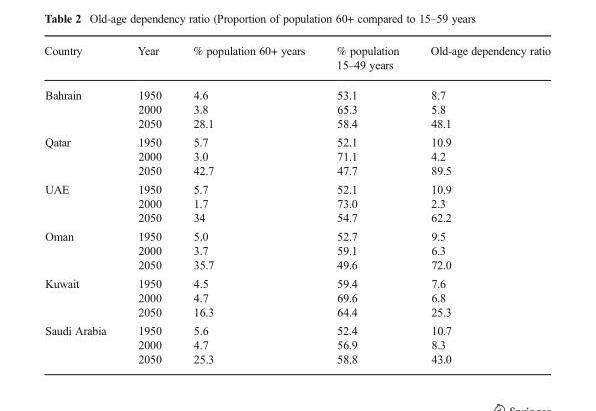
<table><thead><tr><td>Country</td><td>Year</td><td>% population 60+ years</td><td>% population 15–49 years</td><td>Old-age dependency ratio</td></tr></thead><tbody><tr><td>Bahrain</td><td>1950 2000 2050</td><td>4.6 3.8 28.1</td><td>53.1 65.3 58.4</td><td>8.7 5.8 48.1</td></tr><tr><td>Qatar</td><td>1950 2000 2050</td><td>5.7 3.0 42.7</td><td>52.1 71.1 47.7</td><td>10.9 4.2 89.5</td></tr><tr><td>UAE</td><td>1950 2000 2050</td><td>5.7 1.7 34</td><td>52.1 73.0 54.7</td><td>10.9 2.3 62.2</td></tr><tr><td>Oman</td><td>1950 2000 2050</td><td>5.0 3.7 35.7</td><td>52.7 59.1 49.6</td><td>9.5 6.3 72.0</td></tr><tr><td>Kuwait</td><td>1950 2000 2050</td><td>4.5 4.7 16.3</td><td>59.4 69.6 64.4</td><td>7.6 6.8 25.3</td></tr><tr><td>Saudi Arabia</td><td>1950 2000 2050</td><td>5.6 4.7 25.3</td><td>52.4 56.9 58.8</td><td>10.7 8.3 43.0</td></tr></tbody></table>